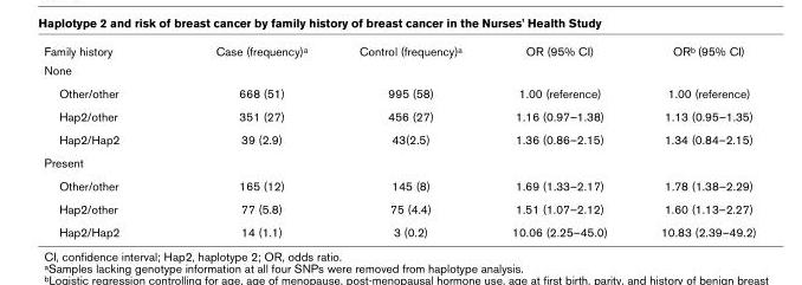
<table><tbody><tr><td>Family history</td><td>Case (frequency)a</td><td>Control (frequency)a</td><td>OR (95% CI)</td><td>ORb (95% CI)</td></tr><tr><td colspan="5">None</td></tr><tr><td>Other/other</td><td>668 (51)</td><td>995 (58)</td><td>1.00 (reference)</td><td>1.00 (reference)</td></tr><tr><td>Hap2/other</td><td>351 (27)</td><td>456 (27)</td><td>1.16 (0.97–1.38)</td><td>1.13 (0.95–1.35)</td></tr><tr><td>Hap2/Hap2</td><td>39 (2.9)</td><td>43(2.5)</td><td>1.36 (0.86–2.15)</td><td>1.34 (0.84–2.15)</td></tr><tr><td colspan="5">Present</td></tr><tr><td>Other/other</td><td>165 (12)</td><td>145 (8)</td><td>1.69 (1.33–2.17)</td><td>1.78 (1.38–2.29)</td></tr><tr><td>Hap2/other</td><td>77 (5.8)</td><td>75 (4.4)</td><td>1.51 (1.07–2.12)</td><td>1.60 (1.13–2.27)</td></tr><tr><td>Hap2/Hap2</td><td>14 (1.1)</td><td>3 (0.2)</td><td>10.06 (2.25–45.0)</td><td>10.83 (2.39–49.2)</td></tr></tbody></table>